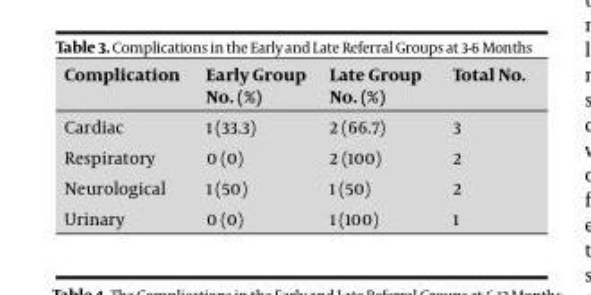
<table><thead><tr><td>Complication</td><td>Early Group No. (%)</td><td>Late Group No. (%)</td><td>Total No.</td></tr></thead><tbody><tr><td>Cardiac</td><td>1 (33.3)</td><td>2 (66.7)</td><td>3</td></tr><tr><td>Respiratory</td><td>0 (0)</td><td>2 (100)</td><td>2</td></tr><tr><td>Neurological</td><td>1 (50)</td><td>1 (50)</td><td>2</td></tr><tr><td>Urinary</td><td>0 (0)</td><td>1 (100)</td><td>1</td></tr></tbody></table>